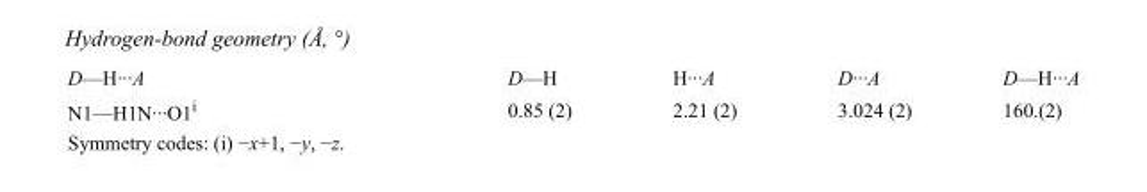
<table><tbody><tr><td>D—H···A</td><td>D—H</td><td>H···A</td><td>D···A</td><td>D—H···A</td></tr><tr><td>N1—H1N···O1<sup>i</sup></td><td>0.85 (2)</td><td>2.21 (2)</td><td>3.024 (2)</td><td>160.(2)</td></tr></tbody></table>